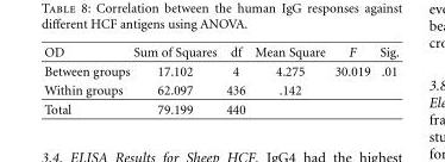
<table><thead><tr><td>OD</td><td>Sum of Squares</td><td>df</td><td>Mean Square</td><td>F</td><td>Sig.</td></tr></thead><tbody><tr><td>Between groups</td><td>17.102</td><td>4</td><td>4.275</td><td>30.019</td><td>.01</td></tr><tr><td>Within groups</td><td>62.097</td><td>436</td><td>.142</td><td></td><td></td></tr><tr><td>Total</td><td>79.199</td><td>440</td><td></td><td></td><td></td></tr></tbody></table>